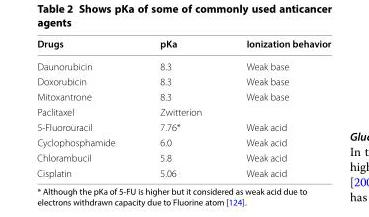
<table><thead><tr><td>Drugs</td><td>pKa</td><td>Ionization behavior</td></tr></thead><tbody><tr><td>Daunorubicin</td><td>8.3</td><td>Weak base</td></tr><tr><td>Doxorubicin</td><td>8.3</td><td>Weak base</td></tr><tr><td>Mitoxantrone</td><td>8.3</td><td>Weak base</td></tr><tr><td>Paclitaxel</td><td>Zwitterion</td><td></td></tr><tr><td>5‑Fluorouracil</td><td>7.76*</td><td>Weak acid</td></tr><tr><td>Cyclophosphamide</td><td>‎6.0‎</td><td>Weak acid</td></tr><tr><td>Chlorambucil</td><td>5.8</td><td>Weak acid</td></tr><tr><td>Cisplatin</td><td>5.06</td><td>Weak acid</td></tr></tbody></table>